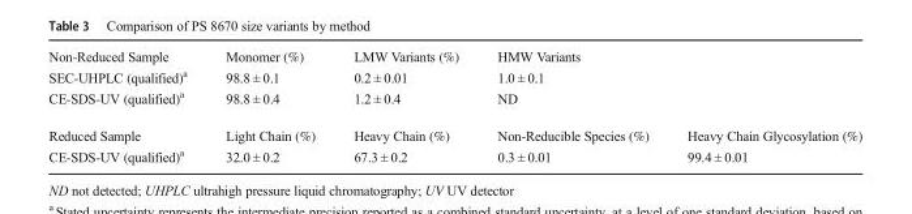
<table><tbody><tr><td>Non-Reduced Sample</td><td>Monomer (%)</td><td>LMW Variants (%)</td><td>HMW Variants</td><td></td></tr><tr><td>SEC-UHPLC (qualified)<sup>a</sup></td><td>98.8 ± 0.1</td><td>0.2 ± 0.01</td><td>1.0 ± 0.1</td><td></td></tr><tr><td>CE-SDS-UV (qualified)<sup>a</sup></td><td>98.8 ± 0.4</td><td>1.2 ± 0.4</td><td>ND</td><td></td></tr><tr><td>Reduced Sample</td><td>Light Chain (%)</td><td>Heavy Chain (%)</td><td>Non-Reducible Species (%)</td><td>Heavy Chain Glycosylation (%)</td></tr><tr><td>CE-SDS-UV (qualified)<sup>a</sup></td><td>32.0 ± 0.2</td><td>67.3 ± 0.2</td><td>0.3 ± 0.01</td><td>99.4 ± 0.01</td></tr></tbody></table>